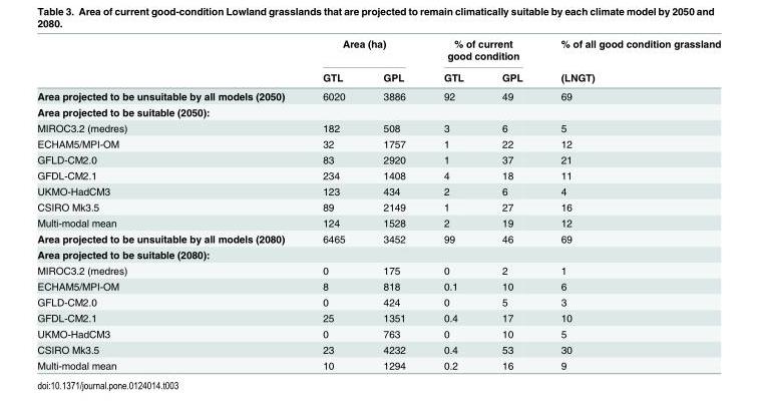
<table><thead><tr><td rowspan="2"></td><td colspan="2">Area (ha)</td><td colspan="2">% of current good condition</td><td rowspan="2">% of all good condition grassland (LNGT)</td></tr><tr><td>GTL</td><td>GPL</td><td>GTL</td><td>GPL</td></tr></thead><tbody><tr><td>Area projected to be unsuitable by all models (2050)</td><td>6020</td><td>3886</td><td>92</td><td>49</td><td>69</td></tr><tr><td colspan="6">Area projected to be suitable (2050):</td></tr><tr><td>MIROC3.2 (medres)</td><td>182</td><td>508</td><td>3</td><td>6</td><td>5</td></tr><tr><td>ECHAM5/MPI-OM</td><td>32</td><td>1757</td><td>1</td><td>22</td><td>12</td></tr><tr><td>GFLD-CM2.0</td><td>83</td><td>2920</td><td>1</td><td>37</td><td>21</td></tr><tr><td>GFDL-CM2.1</td><td>234</td><td>1408</td><td>4</td><td>18</td><td>11</td></tr><tr><td>UKMO-HadCM3</td><td>123</td><td>434</td><td>2</td><td>6</td><td>4</td></tr><tr><td>CSIRO Mk3.5</td><td>89</td><td>2149</td><td>1</td><td>27</td><td>16</td></tr><tr><td>Multi-modal mean</td><td>124</td><td>1528</td><td>2</td><td>19</td><td>12</td></tr><tr><td>Area projected to be unsuitable by all models (2080)</td><td>6465</td><td>3452</td><td>99</td><td>46</td><td>69</td></tr><tr><td colspan="6">Area projected to be suitable (2080):</td></tr><tr><td>MIROC3.2 (medres)</td><td>0</td><td>175</td><td>0</td><td>2</td><td>1</td></tr><tr><td>ECHAM5/MPI-OM</td><td>8</td><td>818</td><td>0.1</td><td>10</td><td>6</td></tr><tr><td>GFLD-CM2.0</td><td>0</td><td>424</td><td>0</td><td>5</td><td>3</td></tr><tr><td>GFDL-CM2.1</td><td>25</td><td>1351</td><td>0.4</td><td>17</td><td>10</td></tr><tr><td>UKMO-HadCM3</td><td>0</td><td>763</td><td>0</td><td>10</td><td>5</td></tr><tr><td>CSIRO Mk3.5</td><td>23</td><td>4232</td><td>0.4</td><td>53</td><td>30</td></tr><tr><td>Multi-modal mean</td><td>10</td><td>1294</td><td>0.2</td><td>16</td><td>9</td></tr></tbody></table>